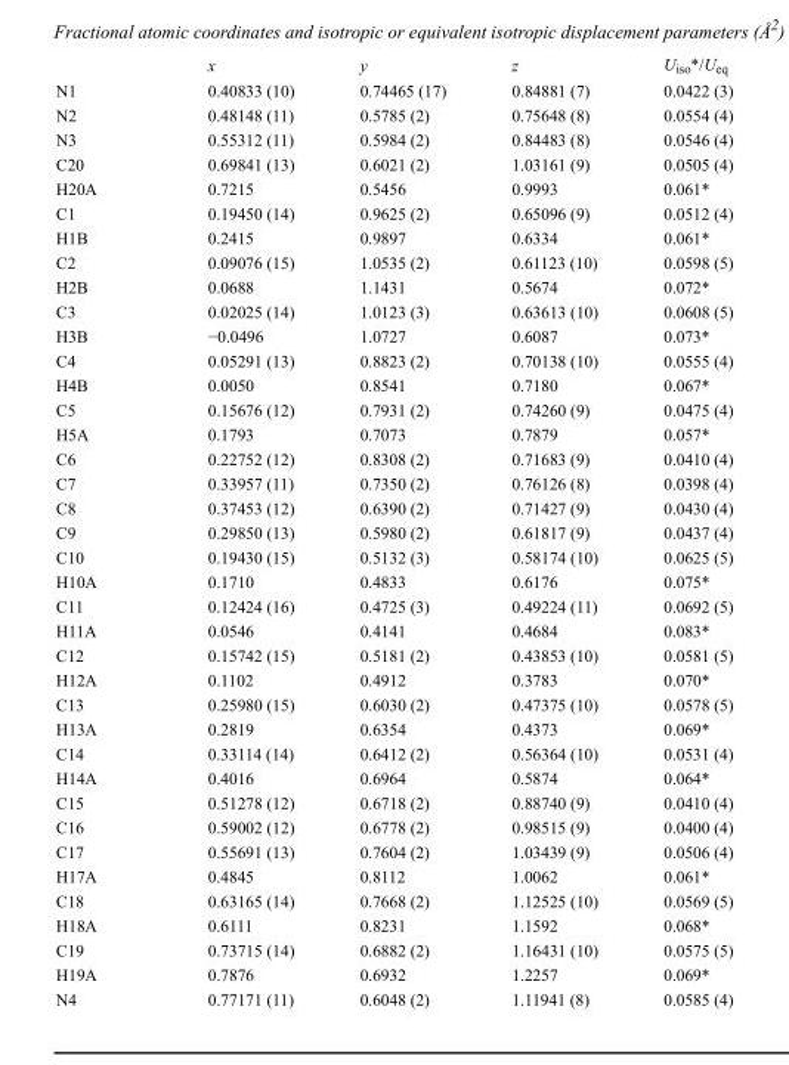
<table><thead><tr><td></td><td>x</td><td>y</td><td>z</td><td>U<sub>iso</sub>*/U<sub>eq</sub></td></tr></thead><tbody><tr><td>N1</td><td>0.40833 (10)</td><td>0.74465 (17)</td><td>0.84881 (7)</td><td>0.0422 (3)</td></tr><tr><td>N2</td><td>0.48148 (11)</td><td>0.5785 (2)</td><td>0.75648 (8)</td><td>0.0554 (4)</td></tr><tr><td>N3</td><td>0.55312 (11)</td><td>0.5984 (2)</td><td>0.84483 (8)</td><td>0.0546 (4)</td></tr><tr><td>C20</td><td>0.69841 (13)</td><td>0.6021 (2)</td><td>1.03161 (9)</td><td>0.0505 (4)</td></tr><tr><td>H20A</td><td>0.7215</td><td>0.5456</td><td>0.9993</td><td>0.061*</td></tr><tr><td>C1</td><td>0.19450 (14)</td><td>0.9625 (2)</td><td>0.65096 (9)</td><td>0.0512 (4)</td></tr><tr><td>H1B</td><td>0.2415</td><td>0.9897</td><td>0.6334</td><td>0.061*</td></tr><tr><td>C2</td><td>0.09076 (15)</td><td>1.0535 (2)</td><td>0.61123 (10)</td><td>0.0598 (5)</td></tr><tr><td>H2B</td><td>0.0688</td><td>1.1431</td><td>0.5674</td><td>0.072*</td></tr><tr><td>C3</td><td>0.02025 (14)</td><td>1.0123 (3)</td><td>0.63613 (10)</td><td>0.0608 (5)</td></tr><tr><td>H3B</td><td>−0.0496</td><td>1.0727</td><td>0.6087</td><td>0.073*</td></tr><tr><td>C4</td><td>0.05291 (13)</td><td>0.8823 (2)</td><td>0.70138 (10)</td><td>0.0555 (4)</td></tr><tr><td>H4B</td><td>0.0050</td><td>0.8541</td><td>0.7180</td><td>0.067*</td></tr><tr><td>C5</td><td>0.15676 (12)</td><td>0.7931 (2)</td><td>0.74260 (9)</td><td>0.0475 (4)</td></tr><tr><td>H5A</td><td>0.1793</td><td>0.7073</td><td>0.7879</td><td>0.057*</td></tr><tr><td>C6</td><td>0.22752 (12)</td><td>0.8308 (2)</td><td>0.71683 (9)</td><td>0.0410 (4)</td></tr><tr><td>C7</td><td>0.33957 (11)</td><td>0.7350 (2)</td><td>0.76126 (8)</td><td>0.0398 (4)</td></tr><tr><td>C8</td><td>0.37453 (12)</td><td>0.6390 (2)</td><td>0.71427 (9)</td><td>0.0430 (4)</td></tr><tr><td>C9</td><td>0.29850 (13)</td><td>0.5980 (2)</td><td>0.61817 (9)</td><td>0.0437 (4)</td></tr><tr><td>C10</td><td>0.19430 (15)</td><td>0.5132 (3)</td><td>0.58174 (10)</td><td>0.0625 (5)</td></tr><tr><td>H10A</td><td>0.1710</td><td>0.4833</td><td>0.6176</td><td>0.075*</td></tr><tr><td>C11</td><td>0.12424 (16)</td><td>0.4725 (3)</td><td>0.49224 (11)</td><td>0.0692 (5)</td></tr><tr><td>H11A</td><td>0.0546</td><td>0.4141</td><td>0.4684</td><td>0.083*</td></tr><tr><td>C12</td><td>0.15742 (15)</td><td>0.5181 (2)</td><td>0.43853 (10)</td><td>0.0581 (5)</td></tr><tr><td>H12A</td><td>0.1102</td><td>0.4912</td><td>0.3783</td><td>0.070*</td></tr><tr><td>C13</td><td>0.25980 (15)</td><td>0.6030 (2)</td><td>0.47375 (10)</td><td>0.0578 (5)</td></tr><tr><td>H13A</td><td>0.2819</td><td>0.6354</td><td>0.4373</td><td>0.069*</td></tr><tr><td>C14</td><td>0.33114 (14)</td><td>0.6412 (2)</td><td>0.56364 (10)</td><td>0.0531 (4)</td></tr><tr><td>H14A</td><td>0.4016</td><td>0.6964</td><td>0.5874</td><td>0.064*</td></tr><tr><td>C15</td><td>0.51278 (12)</td><td>0.6718 (2)</td><td>0.88740 (9)</td><td>0.0410 (4)</td></tr><tr><td>C16</td><td>0.59002 (12)</td><td>0.6778 (2)</td><td>0.98515 (9)</td><td>0.0400 (4)</td></tr><tr><td>C17</td><td>0.55691 (13)</td><td>0.7604 (2)</td><td>1.03439 (9)</td><td>0.0506 (4)</td></tr><tr><td>H17A</td><td>0.4845</td><td>0.8112</td><td>1.0062</td><td>0.061*</td></tr><tr><td>C18</td><td>0.63165 (14)</td><td>0.7668 (2)</td><td>1.12525 (10)</td><td>0.0569 (5)</td></tr><tr><td>H18A</td><td>0.6111</td><td>0.8231</td><td>1.1592</td><td>0.068*</td></tr><tr><td>C19</td><td>0.73715 (14)</td><td>0.6882 (2)</td><td>1.16431 (10)</td><td>0.0575 (5)</td></tr><tr><td>H19A</td><td>0.7876</td><td>0.6932</td><td>1.2257</td><td>0.069*</td></tr><tr><td>N4</td><td>0.77171 (11)</td><td>0.6048 (2)</td><td>1.11941 (8)</td><td>0.0585 (4)</td></tr></tbody></table>